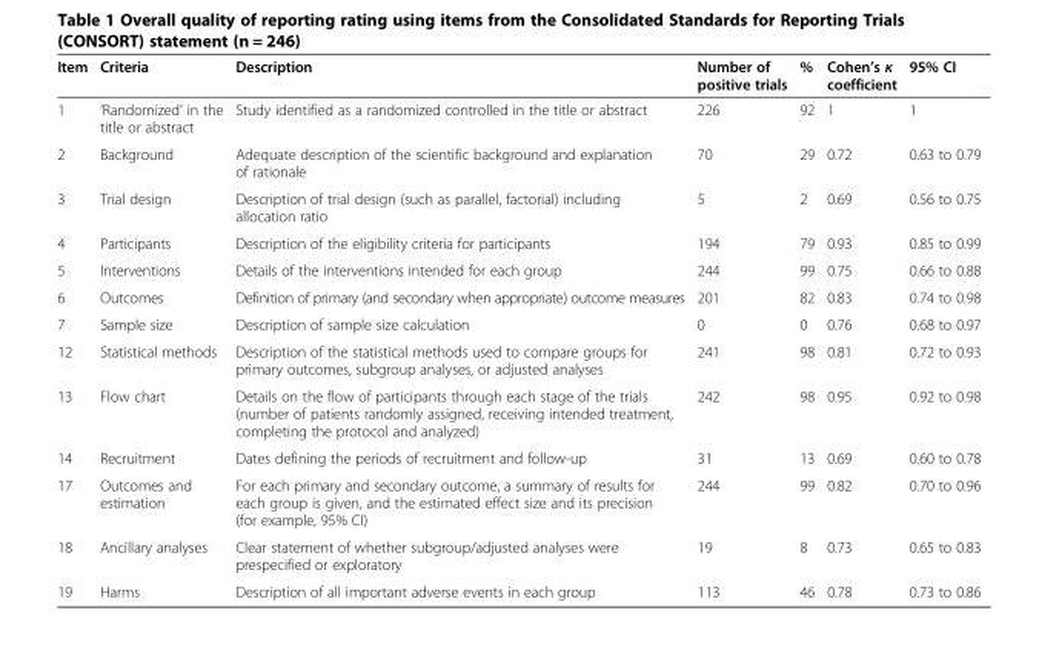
<table><thead><tr><td>Item</td><td>Criteria</td><td>Description</td><td>Number of positive trials</td><td>%</td><td>Cohen’s к coefficient</td><td>95% CI</td></tr></thead><tbody><tr><td>1</td><td>‘Randomized’ in the title or abstract</td><td>Study identified as a randomized controlled in the title or abstract</td><td>226</td><td>92</td><td>1</td><td>1</td></tr><tr><td>2</td><td>Background</td><td>Adequate description of the scientific background and explanation of rationale</td><td>70</td><td>29</td><td>0.72</td><td>0.63 to 0.79</td></tr><tr><td>3</td><td>Trial design</td><td>Description of trial design (such as parallel, factorial) including allocation ratio</td><td>5</td><td>2</td><td>0.69</td><td>0.56 to 0.75</td></tr><tr><td>4</td><td>Participants</td><td>Description of the eligibility criteria for participants</td><td>194</td><td>79</td><td>0.93</td><td>0.85 to 0.99</td></tr><tr><td>5</td><td>Interventions</td><td>Details of the interventions intended for each group</td><td>244</td><td>99</td><td>0.75</td><td>0.66 to 0.88</td></tr><tr><td>6</td><td>Outcomes</td><td>Definition of primary (and secondary when appropriate) outcome measures</td><td>201</td><td>82</td><td>0.83</td><td>0.74 to 0.98</td></tr><tr><td>7</td><td>Sample size</td><td>Description of sample size calculation</td><td>0</td><td>0</td><td>0.76</td><td>0.68 to 0.97</td></tr><tr><td>12</td><td>Statistical methods</td><td>Description of the statistical methods used to compare groups for primary outcomes, subgroup analyses, or adjusted analyses</td><td>241</td><td>98</td><td>0.81</td><td>0.72 to 0.93</td></tr><tr><td>13</td><td>Flow chart</td><td>Details on the flow of participants through each stage of the trials (number of patients randomly assigned, receiving intended treatment, completing the protocol and analyzed)</td><td>242</td><td>98</td><td>0.95</td><td>0.92 to 0.98</td></tr><tr><td>14</td><td>Recruitment</td><td>Dates defining the periods of recruitment and follow-up</td><td>31</td><td>13</td><td>0.69</td><td>0.60 to 0.78</td></tr><tr><td>17</td><td>Outcomes and estimation</td><td>For each primary and secondary outcome, a summary of results for each group is given, and the estimated effect size and its precision (for example, 95% CI)</td><td>244</td><td>99</td><td>0.82</td><td>0.70 to 0.96</td></tr><tr><td>18</td><td>Ancillary analyses</td><td>Clear statement of whether subgroup/adjusted analyses were prespecified or exploratory</td><td>19</td><td>8</td><td>0.73</td><td>0.65 to 0.83</td></tr><tr><td>19</td><td>Harms</td><td>Description of all important adverse events in each group</td><td>113</td><td>46</td><td>0.78</td><td>0.73 to 0.86</td></tr></tbody></table>